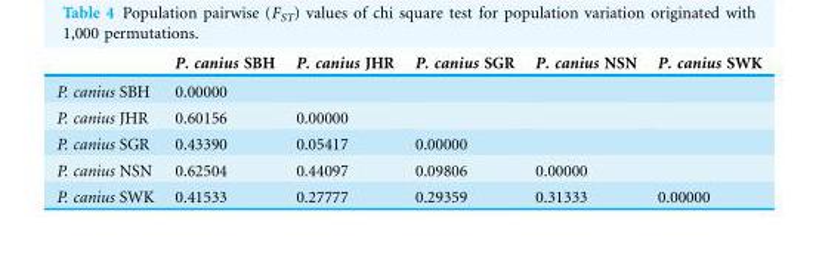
<table><thead><tr><td></td><td>P. canius SBH</td><td>P. canius JHR</td><td>P. canius SGR</td><td>P. canius NSN</td><td>P. canius SWK</td></tr></thead><tbody><tr><td>P. canius SBH</td><td>0.00000</td><td></td><td></td><td></td><td></td></tr><tr><td>P. canius JHR</td><td>0.60156</td><td>0.00000</td><td></td><td></td><td></td></tr><tr><td>P. canius SGR</td><td>0.43390</td><td>0.05417</td><td>0.00000</td><td></td><td></td></tr><tr><td>P. canius NSN</td><td>0.62504</td><td>0.44097</td><td>0.09806</td><td>0.00000</td><td></td></tr><tr><td>P. canius SWK</td><td>0.41533</td><td>0.27777</td><td>0.29359</td><td>0.31333</td><td>0.00000</td></tr></tbody></table>